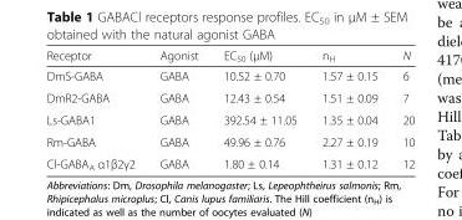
<table><thead><tr><td>Receptor</td><td>Agonist</td><td>EC<sub>50</sub> (μM)</td><td>n<sub>H</sub></td><td>N</td></tr></thead><tbody><tr><td>DmS-GABA</td><td>GABA</td><td>10.52 ± 0.70</td><td>1.57 ± 0.15</td><td>6</td></tr><tr><td>DmR2-GABA</td><td>GABA</td><td>12.43 ± 0.54</td><td>1.51 ± 0.09</td><td>7</td></tr><tr><td>Ls-GABA1</td><td>GABA</td><td>392.54 ± 11.05</td><td>1.35 ± 0.04</td><td>20</td></tr><tr><td>Rm-GABA</td><td>GABA</td><td>49.96 ± 0.76</td><td>2.27 ± 0.19</td><td>10</td></tr><tr><td>Cl-GABA<sub>A</sub> α1β2γ2</td><td>GABA</td><td>1.80 ± 0.14</td><td>1.31 ± 0.12</td><td>12</td></tr></tbody></table>